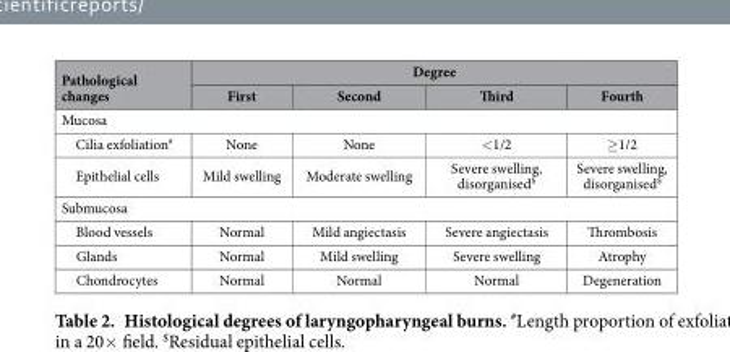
<table><thead><tr><td rowspan="2">Pathological changes</td><td colspan="4">Degree</td></tr><tr><td>First</td><td>Second</td><td>Third</td><td>Fourth</td></tr></thead><tbody><tr><td colspan="5">Mucosa</td></tr><tr><td>Cilia exfoliation<sup>#</sup></td><td>None</td><td>None</td><td>&lt; 1/2</td><td>≥ 1/2</td></tr><tr><td>Epithelial cells</td><td>Mild swelling</td><td>Moderate swelling</td><td>Severe swelling, disorganised<sup>$</sup></td><td>Severe swelling, disorganised<sup>$</sup></td></tr><tr><td colspan="5">Submucosa</td></tr><tr><td>Blood vessels</td><td>Normal</td><td>Mild angiectasis</td><td>Severe angiectasis</td><td>Thrombosis</td></tr><tr><td>Glands</td><td>Normal</td><td>Mild swelling</td><td>Severe swelling</td><td>Atrophy</td></tr><tr><td>Chondrocytes</td><td>Normal</td><td>Normal</td><td>Normal</td><td>Degeneration</td></tr></tbody></table>